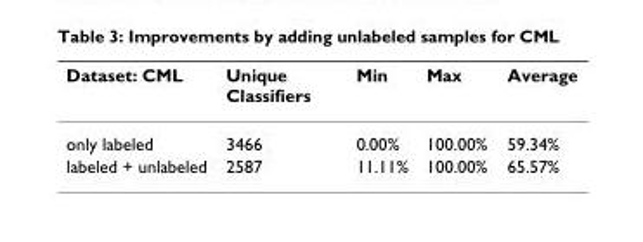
<table><thead><tr><td>Dataset: CML</td><td>Unique Classifiers</td><td>Min</td><td>Max</td><td>Average</td></tr></thead><tbody><tr><td>only labeled</td><td>3466</td><td>0.00%</td><td>100.00%</td><td>59.34%</td></tr><tr><td>labeled + unlabeled</td><td>2587</td><td>11.11%</td><td>100.00%</td><td>65.57%</td></tr></tbody></table>